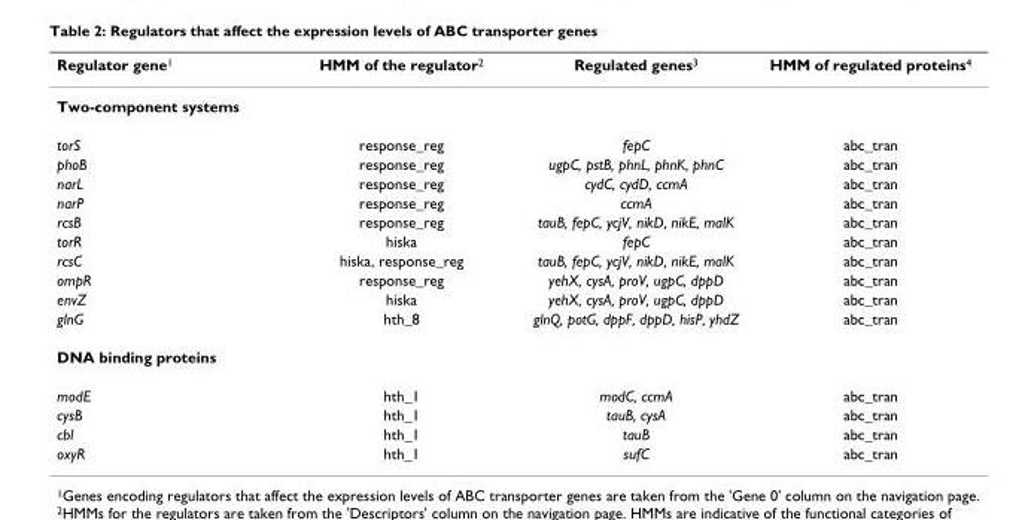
<table><thead><tr><td>Regulator gene<sup>1</sup></td><td>HMM of the regulator<sup>2</sup></td><td>Regulated genes<sup>3</sup></td><td>HMM of regulated proteins<sup>4</sup></td></tr></thead><tbody><tr><td colspan="4">Two-component systems</td></tr><tr><td>torS</td><td>response_reg</td><td>fepC</td><td>abc_tran</td></tr><tr><td>phoB</td><td>response_reg</td><td>ugpC, pstB, phnL, phnK, phnC</td><td>abc_tran</td></tr><tr><td>narL</td><td>response_reg</td><td>cydC, cydD, ccmA</td><td>abc_tran</td></tr><tr><td>narP</td><td>response_reg</td><td>ccmA</td><td>abc_tran</td></tr><tr><td>rcsB</td><td>response_reg</td><td>tauB, fepC, ycjV, nikD, nikE, malK</td><td>abc_tran</td></tr><tr><td>torR</td><td>hiska</td><td>fepC</td><td>abc_tran</td></tr><tr><td>rcsC</td><td>hiska, response_reg</td><td>tauB, fepC, ycjV, nikD, nikE, malK</td><td>abc_tran</td></tr><tr><td>ompR</td><td>response_reg</td><td>yehX, cysA, proV, ugpC, dppD</td><td>abc_tran</td></tr><tr><td>envZ</td><td>hiska</td><td>yehX, cysA, proV, ugpC, dppD</td><td>abc_tran</td></tr><tr><td>glnG</td><td>hth_8</td><td>glnQ, potG, dppF, dppD, hisP, yhdZ</td><td>abc_tran</td></tr><tr><td colspan="4">DNA binding proteins</td></tr><tr><td>modE</td><td>hth_1</td><td>modC, ccmA</td><td>abc_tran</td></tr><tr><td>cysB</td><td>hth_1</td><td>tauB, cysA</td><td>abc_tran</td></tr><tr><td>cbl</td><td>hth_1</td><td>tauB</td><td>abc_tran</td></tr><tr><td>oxyR</td><td>hth_1</td><td>sufC</td><td>abc_tran</td></tr></tbody></table>